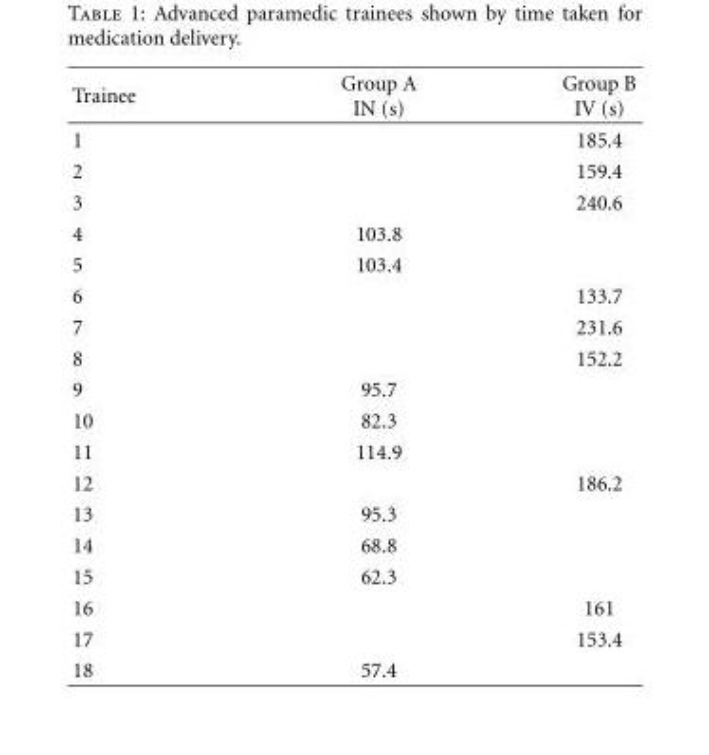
<table><thead><tr><td>Trainee</td><td>Group A IN (s)</td><td>Group B IV (s)</td></tr></thead><tbody><tr><td>1</td><td></td><td>185.4</td></tr><tr><td>2</td><td></td><td>159.4</td></tr><tr><td>3</td><td></td><td>240.6</td></tr><tr><td>4</td><td>103.8</td><td></td></tr><tr><td>5</td><td>103.4</td><td></td></tr><tr><td>6</td><td></td><td>133.7</td></tr><tr><td>7</td><td></td><td>231.6</td></tr><tr><td>8</td><td></td><td>152.2</td></tr><tr><td>9</td><td>95.7</td><td></td></tr><tr><td>10</td><td>82.3</td><td></td></tr><tr><td>11</td><td>114.9</td><td></td></tr><tr><td>12</td><td></td><td>186.2</td></tr><tr><td>13</td><td>95.3</td><td></td></tr><tr><td>14</td><td>68.8</td><td></td></tr><tr><td>15</td><td>62.3</td><td></td></tr><tr><td>16</td><td></td><td>161</td></tr><tr><td>17</td><td></td><td>153.4</td></tr><tr><td>18</td><td>57.4</td><td></td></tr></tbody></table>